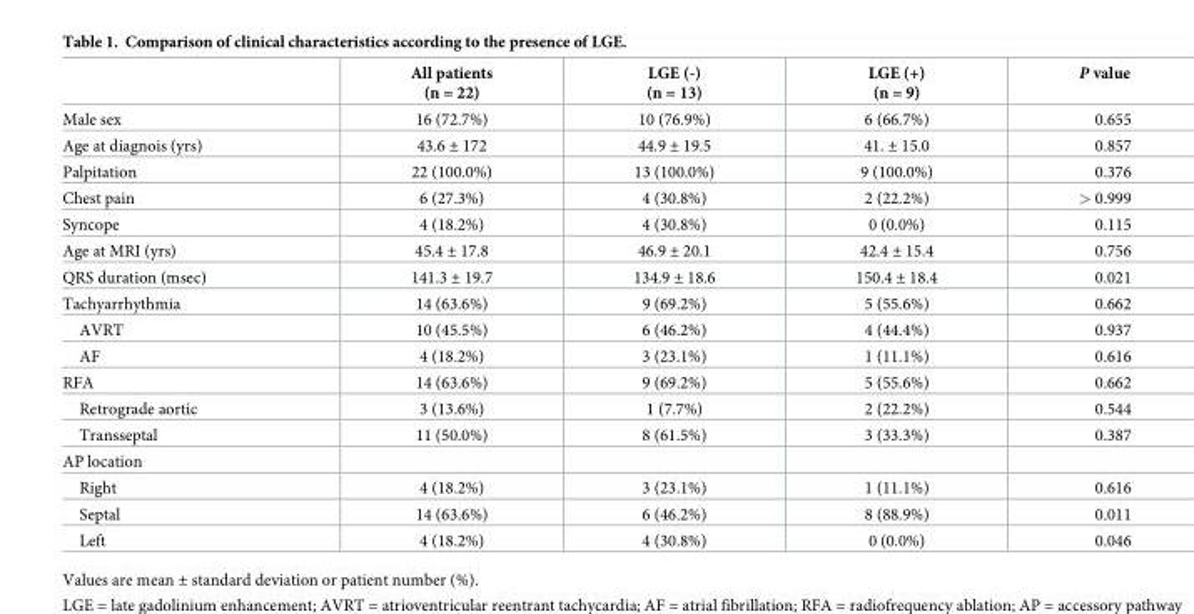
<table><thead><tr><td></td><td>All patients (n = 22)</td><td>LGE (-) (n = 13)</td><td>LGE (+) (n = 9)</td><td>P value</td></tr></thead><tbody><tr><td>Male sex</td><td>16 (72.7%)</td><td>10 (76.9%)</td><td>6 (66.7%)</td><td>0.655</td></tr><tr><td>Age at diagnois (yrs)</td><td>43.6 ± 172</td><td>44.9 ± 19.5</td><td>41. ± 15.0</td><td>0.857</td></tr><tr><td>Palpitation</td><td>22 (100.0%)</td><td>13 (100.0%)</td><td>9 (100.0%)</td><td>0.376</td></tr><tr><td>Chest pain</td><td>6 (27.3%)</td><td>4 (30.8%)</td><td>2 (22.2%)</td><td>&gt; 0.999</td></tr><tr><td>Syncope</td><td>4 (18.2%)</td><td>4 (30.8%)</td><td>0 (0.0%)</td><td>0.115</td></tr><tr><td>Age at MRI (yrs)</td><td>45.4 ± 17.8</td><td>46.9 ± 20.1</td><td>42.4 ± 15.4</td><td>0.756</td></tr><tr><td>QRS duration (msec)</td><td>141.3 ± 19.7</td><td>134.9 ± 18.6</td><td>150.4 ± 18.4</td><td>0.021</td></tr><tr><td>Tachyarrhythmia</td><td>14 (63.6%)</td><td>9 (69.2%)</td><td>5 (55.6%)</td><td>0.662</td></tr><tr><td>AVRT</td><td>10 (45.5%)</td><td>6 (46.2%)</td><td>4 (44.4%)</td><td>0.937</td></tr><tr><td>AF</td><td>4 (18.2%)</td><td>3 (23.1%)</td><td>1 (11.1%)</td><td>0.616</td></tr><tr><td>RFA</td><td>14 (63.6%)</td><td>9 (69.2%)</td><td>5 (55.6%)</td><td>0.662</td></tr><tr><td>Retrograde aortic</td><td>3 (13.6%)</td><td>1 (7.7%)</td><td>2 (22.2%)</td><td>0.544</td></tr><tr><td>Transseptal</td><td>11 (50.0%)</td><td>8 (61.5%)</td><td>3 (33.3%)</td><td>0.387</td></tr><tr><td colspan="5">AP location</td></tr><tr><td>Right</td><td>4 (18.2%)</td><td>3 (23.1%)</td><td>1 (11.1%)</td><td>0.616</td></tr><tr><td>Septal</td><td>14 (63.6%)</td><td>6 (46.2%)</td><td>8 (88.9%)</td><td>0.011</td></tr><tr><td>Left</td><td>4 (18.2%)</td><td>4 (30.8%)</td><td>0 (0.0%)</td><td>0.046</td></tr></tbody></table>